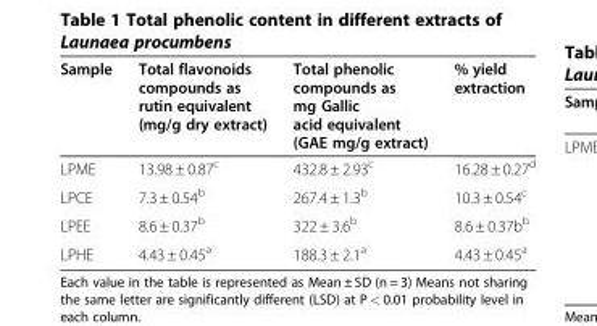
<table><thead><tr><td>Sample</td><td>Total flavonoids compounds as rutin equivalent (mg/g dry extract)</td><td>Total phenolic compounds as mg Gallic acid equivalent (GAE mg/g extract)</td><td>% yield extraction</td></tr></thead><tbody><tr><td>LPME</td><td>13.98 ± 0.87<sup>c</sup></td><td>432.8 ± 2.93<sup>c</sup></td><td>16.28 ± 0.27<sup>d</sup></td></tr><tr><td>LPCE</td><td>7.3 ± 0.54<sup>b</sup></td><td>267.4 ± 1.3<sup>b</sup></td><td>10.3 ± 0.54<sup>c</sup></td></tr><tr><td>LPEE</td><td>8.6 ± 0.37<sup>b</sup></td><td>322 ± 3.6<sup>b</sup></td><td>8.6 ± 0.37b<sup>b</sup></td></tr><tr><td>LPHE</td><td>4.43 ± 0.45<sup>a</sup></td><td>188.3 ± 2.1<sup>a</sup></td><td>4.43 ± 0.45<sup>a</sup></td></tr></tbody></table>